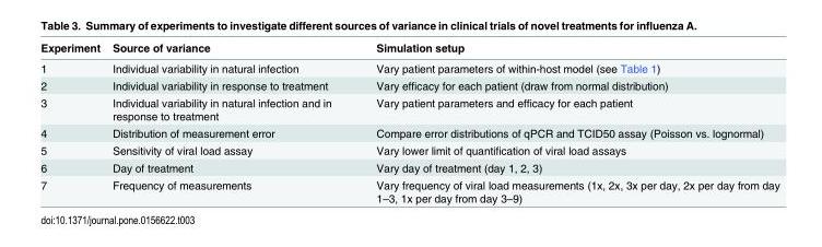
<table><thead><tr><td>Experiment</td><td>Source of variance</td><td>Simulation setup</td></tr></thead><tbody><tr><td>1</td><td>Individual variability in natural infection</td><td>Vary patient parameters of within-host model (see Table 1)</td></tr><tr><td>2</td><td>Individual variability in response to treatment</td><td>Vary efficacy for each patient (draw from normal distribution)</td></tr><tr><td>3</td><td>Individual variability in natural infection and in response to treatment</td><td>Vary patient parameters and efficacy for each patient</td></tr><tr><td>4</td><td>Distribution of measurement error</td><td>Compare error distributions of qPCR and TCID50 assay (Poisson vs. lognormal)</td></tr><tr><td>5</td><td>Sensitivity of viral load assay</td><td>Vary lower limit of quantification of viral load assays</td></tr><tr><td>6</td><td>Day of treatment</td><td>Vary day of treatment (day 1, 2, 3)</td></tr><tr><td>7</td><td>Frequency of measurements</td><td>Vary frequency of viral load measurements (1x, 2x, 3x per day, 2x per day from day 1–3, 1x per day from day 3–9)</td></tr></tbody></table>